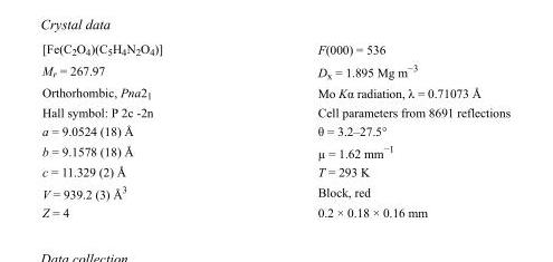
<table><tbody><tr><td>[Fe(C<sub>2</sub>O<sub>4</sub>)(C<sub>5</sub>H<sub>4</sub>N<sub>2</sub>O<sub>4</sub>)]</td><td>F(000) = 536</td></tr><tr><td>M<sub>r</sub> = 267.97</td><td>D<sub>x</sub> = 1.895 Mg m<sup>−3</sup></td></tr><tr><td>Orthorhombic, Pna2<sub>1</sub></td><td>Mo Kα radiation, λ = 0.71073 Å</td></tr><tr><td>Hall symbol: P 2c -2n</td><td>Cell parameters from 8691 reflections</td></tr><tr><td>a = 9.0524 (18) Å</td><td>θ = 3.2–27.5°</td></tr><tr><td>b = 9.1578 (18) Å</td><td>µ = 1.62 mm<sup>−1</sup></td></tr><tr><td>c = 11.329 (2) Å</td><td>T = 293 K</td></tr><tr><td>V = 939.2 (3) Å<sup>3</sup></td><td>Block, red</td></tr><tr><td>Z = 4</td><td>0.2 × 0.18 × 0.16 mm</td></tr></tbody></table>